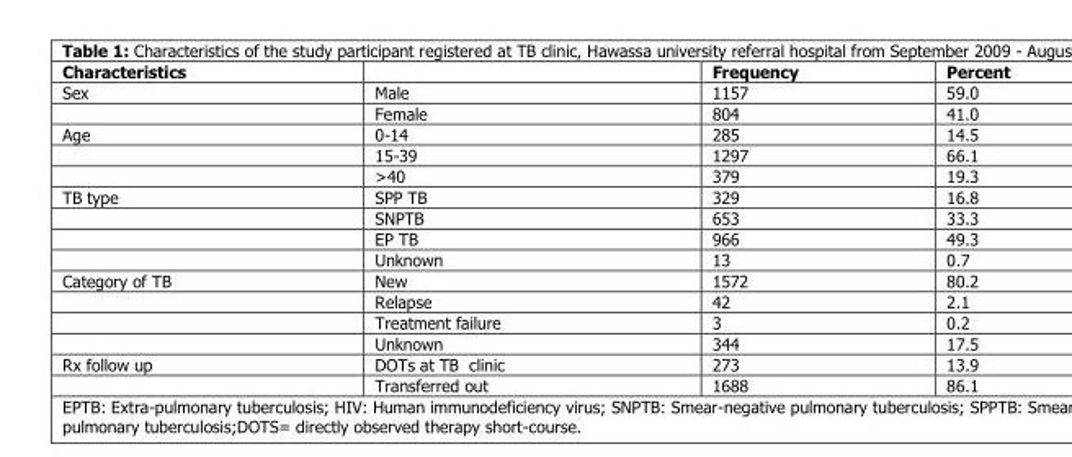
<table><thead><tr><td>Characteristics</td><td></td><td>Frequency</td><td>Percent</td></tr></thead><tbody><tr><td rowspan="2">Sex</td><td>Male</td><td>1157</td><td>59.0</td></tr><tr><td>Female</td><td>804</td><td>41.0</td></tr><tr><td rowspan="3">Age</td><td>0-14</td><td>285</td><td>14.5</td></tr><tr><td>15-39</td><td>1297</td><td>66.1</td></tr><tr><td>&gt;40</td><td>379</td><td>19.3</td></tr><tr><td rowspan="4">TB type</td><td>SPP TB</td><td>329</td><td>16.8</td></tr><tr><td>SNPTB</td><td>653</td><td>33.3</td></tr><tr><td>EP TB</td><td>966</td><td>49.3</td></tr><tr><td>Unknown</td><td>13</td><td>0.7</td></tr><tr><td rowspan="4">Category of TB</td><td>New</td><td>1572</td><td>80.2</td></tr><tr><td>Relapse</td><td>42</td><td>2.1</td></tr><tr><td>Treatment failure</td><td>3</td><td>0.2</td></tr><tr><td>Unknown</td><td>344</td><td>17.5</td></tr><tr><td rowspan="2">Rx follow up</td><td>DOTs at TB clinic</td><td>273</td><td>13.9</td></tr><tr><td>Transferred out</td><td>1688</td><td>86.1</td></tr></tbody></table>